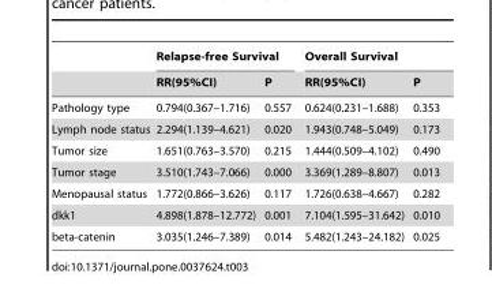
<table><thead><tr><td rowspan="2"></td><td colspan="2">Relapse-free Survival</td><td colspan="2">Overall Survival</td></tr><tr><td>RR(95%CI)</td><td>P</td><td>RR(95%CI)</td><td>P</td></tr></thead><tbody><tr><td>Pathology type</td><td>0.794(0.367–1.716)</td><td>0.557</td><td>0.624(0.231–1.688)</td><td>0.353</td></tr><tr><td>Lymph node status</td><td>2.294(1.139–4.621)</td><td>0.020</td><td>1.943(0.748–5.049)</td><td>0.173</td></tr><tr><td>Tumor size</td><td>1.651(0.763–3.570)</td><td>0.215</td><td>1.444(0.509–4.102)</td><td>0.490</td></tr><tr><td>Tumor stage</td><td>3.510(1.743–7.066)</td><td>0.000</td><td>3.369(1.289–8.807)</td><td>0.013</td></tr><tr><td>Menopausal status</td><td>1.772(0.866–3.626)</td><td>0.117</td><td>1.726(0.638–4.667)</td><td>0.282</td></tr><tr><td>dkk1</td><td>4.898(1.878–12.772)</td><td>0.001</td><td>7.104(1.595–31.642)</td><td>0.010</td></tr><tr><td>beta-catenin</td><td>3.035(1.246–7.389)</td><td>0.014</td><td>5.482(1.243–24.182)</td><td>0.025</td></tr></tbody></table>